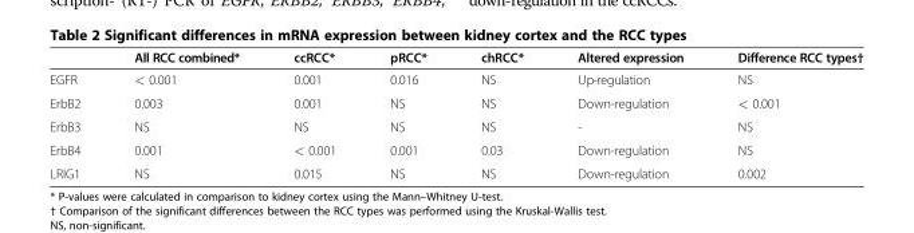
<table><thead><tr><td></td><td>All RCC combined*</td><td>ccRCC*</td><td>pRCC*</td><td>chRCC*</td><td>Altered expression</td><td>Difference RCC types†</td></tr></thead><tbody><tr><td>EGFR</td><td>&lt; 0.001</td><td>0.001</td><td>0.016</td><td>NS</td><td>Up-regulation</td><td>NS</td></tr><tr><td>ErbB2</td><td>0.003</td><td>0.001</td><td>NS</td><td>NS</td><td>Down-regulation</td><td>&lt; 0.001</td></tr><tr><td>ErbB3</td><td>NS</td><td>NS</td><td>NS</td><td>NS</td><td>-</td><td>NS</td></tr><tr><td>ErbB4</td><td>0.001</td><td>&lt; 0.001</td><td>0.001</td><td>0.03</td><td>Down-regulation</td><td>NS</td></tr><tr><td>LRIG1</td><td>NS</td><td>0.015</td><td>NS</td><td>NS</td><td>Down-regulation</td><td>0.002</td></tr></tbody></table>